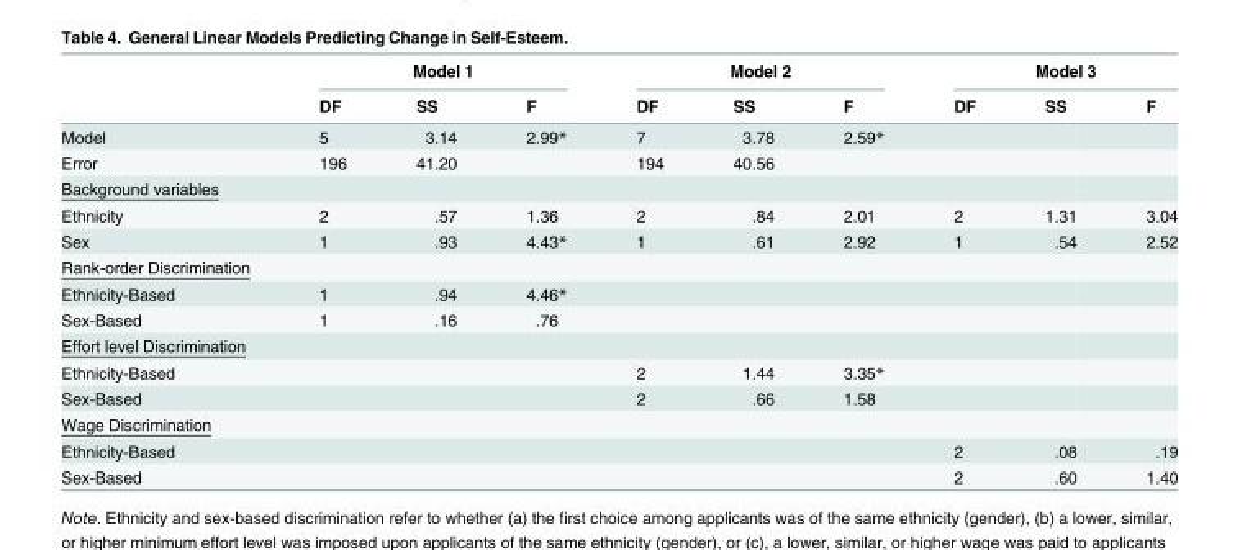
<table><thead><tr><td rowspan="2"></td><td colspan="3">Model 1</td><td colspan="3">Model 2</td><td colspan="3">Model 3</td></tr><tr><td>DF</td><td>SS</td><td>F</td><td>DF</td><td>SS</td><td>F</td><td>DF</td><td>SS</td><td>F</td></tr></thead><tbody><tr><td>Model</td><td>5</td><td>3.14</td><td>2.99*</td><td>7</td><td>3.78</td><td>2.59*</td><td></td><td></td><td></td></tr><tr><td>Error</td><td>196</td><td>41.20</td><td></td><td>194</td><td>40.56</td><td></td><td></td><td></td><td></td></tr><tr><td colspan="10">Background variables</td></tr><tr><td>Ethnicity</td><td>2</td><td>.57</td><td>1.36</td><td>2</td><td>.84</td><td>2.01</td><td>2</td><td>1.31</td><td>3.04</td></tr><tr><td>Sex</td><td>1</td><td>.93</td><td>4.43*</td><td>1</td><td>.61</td><td>2.92</td><td>1</td><td>.54</td><td>2.52</td></tr><tr><td colspan="10">Rank-order Discrimination</td></tr><tr><td>Ethnicity-Based</td><td>1</td><td>.94</td><td>4.46*</td><td></td><td></td><td></td><td></td><td></td><td></td></tr><tr><td>Sex-Based</td><td>1</td><td>.16</td><td>.76</td><td></td><td></td><td></td><td></td><td></td><td></td></tr><tr><td colspan="10">Effort level Discrimination</td></tr><tr><td>Ethnicity-Based</td><td></td><td></td><td></td><td>2</td><td>1.44</td><td>3.35*</td><td></td><td></td><td></td></tr><tr><td>Sex-Based</td><td></td><td></td><td></td><td>2</td><td>.66</td><td>1.58</td><td></td><td></td><td></td></tr><tr><td colspan="10">Wage Discrimination</td></tr><tr><td>Ethnicity-Based</td><td></td><td></td><td></td><td></td><td></td><td></td><td>2</td><td>.08</td><td>.19</td></tr><tr><td>Sex-Based</td><td></td><td></td><td></td><td></td><td></td><td></td><td>2</td><td>.60</td><td>1.40</td></tr></tbody></table>